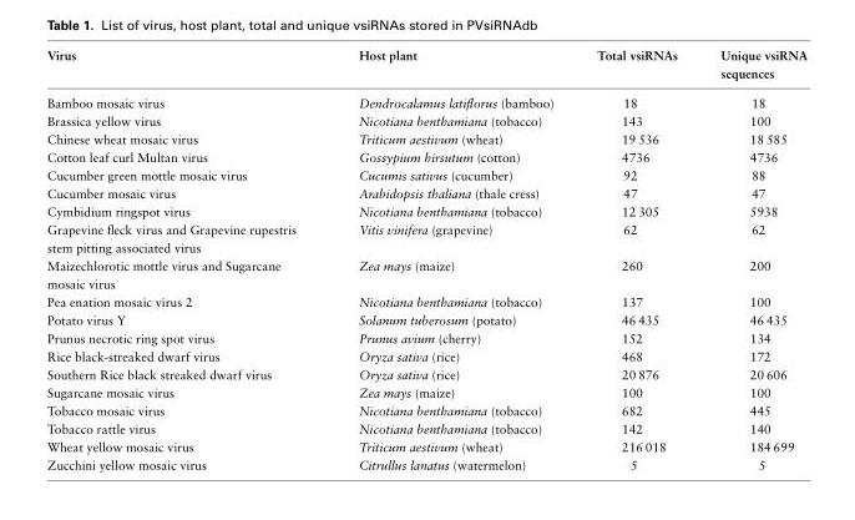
<table><thead><tr><td>Virus</td><td>Host plant</td><td>Total vsiRNAs</td><td>Unique vsiRNA sequences</td></tr></thead><tbody><tr><td>Bamboo mosaic virus</td><td>Dendrocalamus latiflorus (bamboo)</td><td>18</td><td>18</td></tr><tr><td>Brassica yellow virus</td><td>Nicotiana benthamiana (tobacco)</td><td>143</td><td>100</td></tr><tr><td>Chinese wheat mosaic virus</td><td>Triticum aestivum (wheat)</td><td>19 536</td><td>18 585</td></tr><tr><td>Cotton leaf curl Multan virus</td><td>Gossypium hirsutum (cotton)</td><td>4736</td><td>4736</td></tr><tr><td>Cucumber green mottle mosaic virus</td><td>Cucumis sativus (cucumber)</td><td>92</td><td>88</td></tr><tr><td>Cucumber mosaic virus</td><td>Arabidopsis thaliana (thale cress)</td><td>47</td><td>47</td></tr><tr><td>Cymbidium ringspot virus</td><td>Nicotiana benthamiana (tobacco)</td><td>12 305</td><td>5938</td></tr><tr><td>Grapevine fleck virus and Grapevine rupestris stem pitting associated virus</td><td>Vitis vinifera (grapevine)</td><td>62</td><td>62</td></tr><tr><td>Maizechlorotic mottle virus and Sugarcane mosaic virus</td><td>Zea mays (maize)</td><td>260</td><td>200</td></tr><tr><td>Pea enation mosaic virus 2</td><td>Nicotiana benthamiana (tobacco)</td><td>137</td><td>100</td></tr><tr><td>Potato virus Y</td><td>Solanum tuberosum (potato)</td><td>46 435</td><td>46 435</td></tr><tr><td>Prunus necrotic ring spot virus</td><td>Prunus avium (cherry)</td><td>152</td><td>134</td></tr><tr><td>Rice black-streaked dwarf virus</td><td>Oryza sativa (rice)</td><td>468</td><td>172</td></tr><tr><td>Southern Rice black streaked dwarf virus</td><td>Oryza sativa (rice)</td><td>20 876</td><td>20 606</td></tr><tr><td>Sugarcane mosaic virus</td><td>Zea mays (maize)</td><td>100</td><td>100</td></tr><tr><td>Tobacco mosaic virus</td><td>Nicotiana benthamiana (tobacco)</td><td>682</td><td>445</td></tr><tr><td>Tobacco rattle virus</td><td>Nicotiana benthamiana (tobacco)</td><td>142</td><td>140</td></tr><tr><td>Wheat yellow mosaic virus</td><td>Triticum aestivum (wheat)</td><td>216 018</td><td>184 699</td></tr><tr><td>Zucchini yellow mosaic virus</td><td>Citrullus lanatus (watermelon)</td><td>5</td><td>5</td></tr></tbody></table>